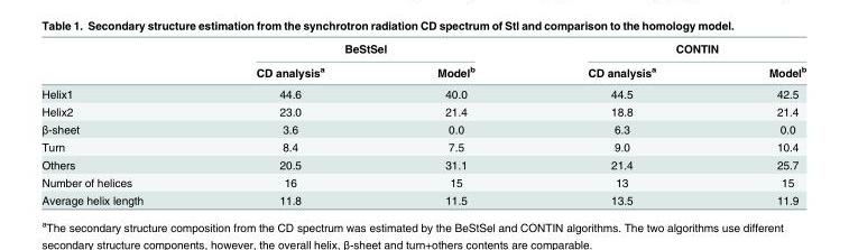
<table><thead><tr><td rowspan="2"></td><td colspan="2">BeStSel</td><td colspan="2">CONTIN</td></tr><tr><td>CD analysis<sup>a</sup></td><td>Model<sup>b</sup></td><td>CD analysis<sup>a</sup></td><td>Model<sup>b</sup></td></tr></thead><tbody><tr><td>Helix1</td><td>44.6</td><td>40.0</td><td>44.5</td><td>42.5</td></tr><tr><td>Helix2</td><td>23.0</td><td>21.4</td><td>18.8</td><td>21.4</td></tr><tr><td>β-sheet</td><td>3.6</td><td>0.0</td><td>6.3</td><td>0.0</td></tr><tr><td>Turn</td><td>8.4</td><td>7.5</td><td>9.0</td><td>10.4</td></tr><tr><td>Others</td><td>20.5</td><td>31.1</td><td>21.4</td><td>25.7</td></tr><tr><td>Number of helices</td><td>16</td><td>15</td><td>13</td><td>15</td></tr><tr><td>Average helix length</td><td>11.8</td><td>11.5</td><td>13.5</td><td>11.9</td></tr></tbody></table>